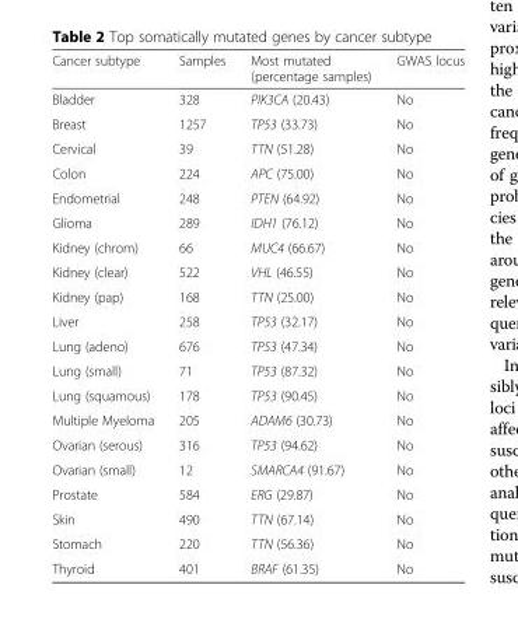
<table><thead><tr><td>Cancer subtype</td><td>Samples</td><td>Most mutated (percentage samples)</td><td>GWAS locus</td></tr></thead><tbody><tr><td>Bladder</td><td>328</td><td>PIK3CA (20.43)</td><td>No</td></tr><tr><td>Breast</td><td>1257</td><td>TP53 (33.73)</td><td>No</td></tr><tr><td>Cervical</td><td>39</td><td>TTN (51.28)</td><td>No</td></tr><tr><td>Colon</td><td>224</td><td>APC (75.00)</td><td>No</td></tr><tr><td>Endometrial</td><td>248</td><td>PTEN (64.92)</td><td>No</td></tr><tr><td>Glioma</td><td>289</td><td>IDH1 (76.12)</td><td>No</td></tr><tr><td>Kidney (chrom)</td><td>66</td><td>MUC4 (66.67)</td><td>No</td></tr><tr><td>Kidney (clear)</td><td>522</td><td>VHL (46.55)</td><td>No</td></tr><tr><td>Kidney (pap)</td><td>168</td><td>TTN (25.00)</td><td>No</td></tr><tr><td>Liver</td><td>258</td><td>TP53 (32.17)</td><td>No</td></tr><tr><td>Lung (adeno)</td><td>676</td><td>TP53 (47.34)</td><td>No</td></tr><tr><td>Lung (small)</td><td>71</td><td>TP53 (87.32)</td><td>No</td></tr><tr><td>Lung (squamous)</td><td>178</td><td>TP53 (90.45)</td><td>No</td></tr><tr><td>Multiple Myeloma</td><td>205</td><td>ADAM6 (30.73)</td><td>No</td></tr><tr><td>Ovarian (serous)</td><td>316</td><td>TP53 (94.62)</td><td>No</td></tr><tr><td>Ovarian (small)</td><td>12</td><td>SMARCA4 (91.67)</td><td>No</td></tr><tr><td>Prostate</td><td>584</td><td>ERG (29.87)</td><td>No</td></tr><tr><td>Skin</td><td>490</td><td>TTN (67.14)</td><td>No</td></tr><tr><td>Stomach</td><td>220</td><td>TTN (56.36)</td><td>No</td></tr><tr><td>Thyroid</td><td>401</td><td>BRAF (61.35)</td><td>No</td></tr></tbody></table>